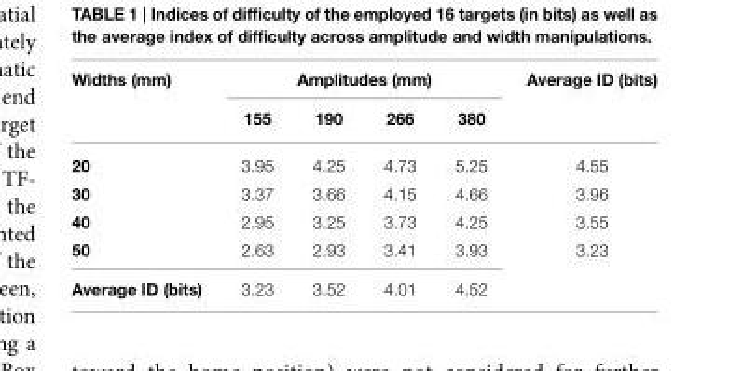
<table><thead><tr><td rowspan="2">Widths (mm)</td><td colspan="4">Amplitudes (mm)</td><td rowspan="2">Average ID (bits)</td></tr><tr><td>155</td><td>190</td><td>266</td><td>380</td></tr></thead><tbody><tr><td>20</td><td>3.95</td><td>4.25</td><td>4.73</td><td>5.25</td><td>4.55</td></tr><tr><td>30</td><td>3.37</td><td>3.66</td><td>4.15</td><td>4.66</td><td>3.96</td></tr><tr><td>40</td><td>2.95</td><td>3.25</td><td>3.73</td><td>4.25</td><td>3.55</td></tr><tr><td>50</td><td>2.63</td><td>2.93</td><td>3.41</td><td>3.93</td><td>3.23</td></tr><tr><td>Average ID (bits)</td><td>3.23</td><td>3.52</td><td>4.01</td><td>4.52</td><td></td></tr></tbody></table>